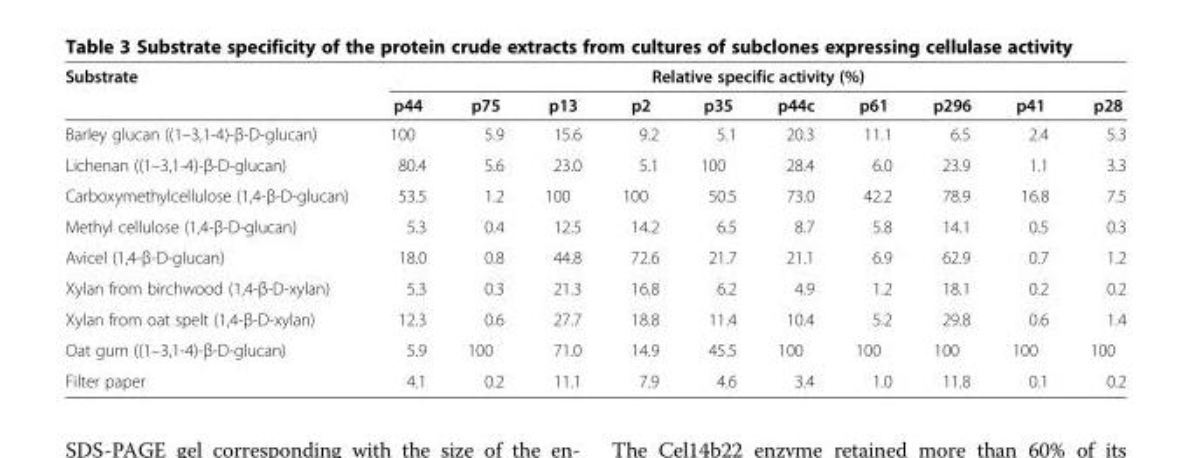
<table><thead><tr><td rowspan="2">Substrate</td><td colspan="10">Relative specific activity (%)</td></tr><tr><td>p44</td><td>p75</td><td>p13</td><td>p2</td><td>p35</td><td>p44c</td><td>p61</td><td>p296</td><td>p41</td><td>p28</td></tr></thead><tbody><tr><td>Barley glucan ((1–3,1-4)-β-D-glucan)</td><td>100</td><td>5.9</td><td>15.6</td><td>9.2</td><td>5.1</td><td>20.3</td><td>11.1</td><td>6.5</td><td>2.4</td><td>5.3</td></tr><tr><td>Lichenan ((1–3,1-4)-β-D-glucan)</td><td>80.4</td><td>5.6</td><td>23.0</td><td>5.1</td><td>100</td><td>28.4</td><td>6.0</td><td>23.9</td><td>1.1</td><td>3.3</td></tr><tr><td>Carboxymethylcellulose (1,4-β-D-glucan)</td><td>53.5</td><td>1.2</td><td>100</td><td>100</td><td>50.5</td><td>73.0</td><td>42.2</td><td>78.9</td><td>16.8</td><td>7.5</td></tr><tr><td>Methyl cellulose (1,4-β-D-glucan)</td><td>5.3</td><td>0.4</td><td>12.5</td><td>14.2</td><td>6.5</td><td>8.7</td><td>5.8</td><td>14.1</td><td>0.5</td><td>0.3</td></tr><tr><td>Avicel (1,4-β-D-glucan)</td><td>18.0</td><td>0.8</td><td>44.8</td><td>72.6</td><td>21.7</td><td>21.1</td><td>6.9</td><td>62.9</td><td>0.7</td><td>1.2</td></tr><tr><td>Xylan from birchwood (1,4-β-D-xylan)</td><td>5.3</td><td>0.3</td><td>21.3</td><td>16.8</td><td>6.2</td><td>4.9</td><td>1.2</td><td>18.1</td><td>0.2</td><td>0.2</td></tr><tr><td>Xylan from oat spelt (1,4-β-D-xylan)</td><td>12.3</td><td>0.6</td><td>27.7</td><td>18.8</td><td>11.4</td><td>10.4</td><td>5.2</td><td>29.8</td><td>0.6</td><td>1.4</td></tr><tr><td>Oat gum ((1–3,1-4)-β-D-glucan)</td><td>5.9</td><td>100</td><td>71.0</td><td>14.9</td><td>45.5</td><td>100</td><td>100</td><td>100</td><td>100</td><td>100</td></tr><tr><td>Filter paper</td><td>4.1</td><td>0.2</td><td>11.1</td><td>7.9</td><td>4.6</td><td>3.4</td><td>1.0</td><td>11.8</td><td>0.1</td><td>0.2</td></tr></tbody></table>